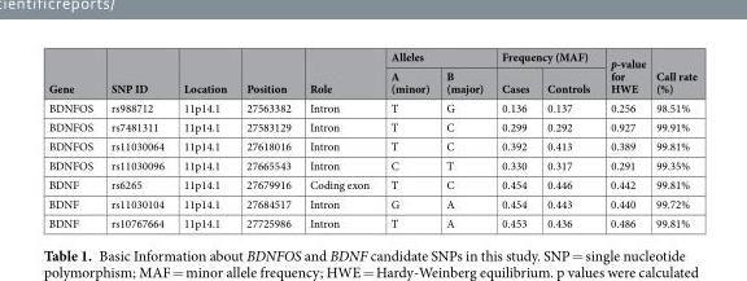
<table><thead><tr><td rowspan="2">Gene</td><td rowspan="2">SNP ID</td><td rowspan="2">Location</td><td rowspan="2">Position</td><td rowspan="2">Role</td><td colspan="2">Alleles</td><td colspan="2">Frequency (MAF)</td><td rowspan="2">p-value for HWE</td><td rowspan="2">Call rate (%)</td></tr><tr><td>A (minor)</td><td>B (major)</td><td>Cases</td><td>Controls</td></tr></thead><tbody><tr><td>BDNFOS</td><td>rs988712</td><td>11p14.1</td><td>27563382</td><td>Intron</td><td>T</td><td>G</td><td>0.136</td><td>0.137</td><td>0.256</td><td>98.51%</td></tr><tr><td>BDNFOS</td><td>rs7481311</td><td>11p14.1</td><td>27583129</td><td>Intron</td><td>T</td><td>C</td><td>0.299</td><td>0.292</td><td>0.927</td><td>99.91%</td></tr><tr><td>BDNFOS</td><td>rs11030064</td><td>11p14.1</td><td>27618016</td><td>Intron</td><td>T</td><td>C</td><td>0.392</td><td>0.413</td><td>0.389</td><td>99.81%</td></tr><tr><td>BDNFOS</td><td>rs11030096</td><td>11p14.1</td><td>27665543</td><td>Intron</td><td>C</td><td>T</td><td>0.330</td><td>0.317</td><td>0.291</td><td>99.35%</td></tr><tr><td>BDNF</td><td>rs6265</td><td>11p14.1</td><td>27679916</td><td>Coding exon</td><td>T</td><td>C</td><td>0.454</td><td>0.446</td><td>0.442</td><td>99.81%</td></tr><tr><td>BDNF</td><td>rs11030104</td><td>11p14.1</td><td>27684517</td><td>Intron</td><td>G</td><td>A</td><td>0.454</td><td>0.443</td><td>0.440</td><td>99.72%</td></tr><tr><td>BDNF</td><td>rs10767664</td><td>11p14.1</td><td>27725986</td><td>Intron</td><td>T</td><td>A</td><td>0.453</td><td>0.436</td><td>0.486</td><td>99.81%</td></tr></tbody></table>